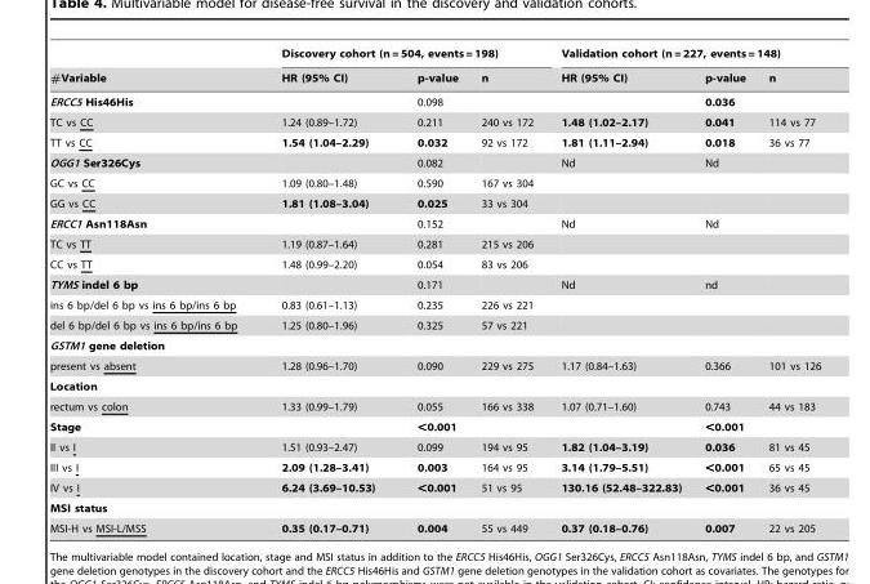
<table><thead><tr><td rowspan="2">#Variable</td><td colspan="3">Discovery cohort (n = 504, events = 198)</td><td colspan="3">Validation cohort (n = 227, events = 148)</td></tr><tr><td>HR (95% CI)</td><td>p-value</td><td>n</td><td>HR (95% CI)</td><td>p-value</td><td>n</td></tr></thead><tbody><tr><td>ERCC5 His46His</td><td></td><td>0.098</td><td></td><td></td><td>0.036</td><td></td></tr><tr><td>TC vs CC</td><td>1.24 (0.89–1.72)</td><td>0.211</td><td>240 vs 172</td><td>1.48 (1.02–2.17)</td><td>0.041</td><td>114 vs 77</td></tr><tr><td>TT vs CC</td><td>1.54 (1.04–2.29)</td><td>0.032</td><td>92 vs 172</td><td>1.81 (1.11–2.94)</td><td>0.018</td><td>36 vs 77</td></tr><tr><td>OGG1 Ser326Cys</td><td></td><td>0.082</td><td></td><td>Nd</td><td>Nd</td><td></td></tr><tr><td>GC vs CC</td><td>1.09 (0.80–1.48)</td><td>0.590</td><td>167 vs 304</td><td></td><td></td><td></td></tr><tr><td>GG vs CC</td><td>1.81 (1.08–3.04)</td><td>0.025</td><td>33 vs 304</td><td></td><td></td><td></td></tr><tr><td>ERCC1 Asn118Asn</td><td></td><td>0.152</td><td></td><td>Nd</td><td>Nd</td><td></td></tr><tr><td>TC vs TT</td><td>1.19 (0.87–1.64)</td><td>0.281</td><td>215 vs 206</td><td></td><td></td><td></td></tr><tr><td>CC vs TT</td><td>1.48 (0.99–2.20)</td><td>0.054</td><td>83 vs 206</td><td></td><td></td><td></td></tr><tr><td>TYMS indel 6 bp</td><td></td><td>0.171</td><td></td><td>Nd</td><td>nd</td><td></td></tr><tr><td>ins 6 bp/del 6 bp vs ins 6 bp/ins 6 bp</td><td>0.83 (0.61–1.13)</td><td>0.235</td><td>226 vs 221</td><td></td><td></td><td></td></tr><tr><td>del 6 bp/del 6 bp vs ins 6 bp/ins 6 bp</td><td>1.25 (0.80–1.96)</td><td>0.325</td><td>57 vs 221</td><td></td><td></td><td></td></tr><tr><td colspan="7">GSTM1 gene deletion</td></tr><tr><td>present vs absent</td><td>1.28 (0.96–1.70)</td><td>0.090</td><td>229 vs 275</td><td>1.17 (0.84–1.63)</td><td>0.366</td><td>101 vs 126</td></tr><tr><td colspan="7">Location</td></tr><tr><td>rectum vs colon</td><td>1.33 (0.99–1.79)</td><td>0.055</td><td>166 vs 338</td><td>1.07 (0.71–1.60)</td><td>0.743</td><td>44 vs 183</td></tr><tr><td>Stage</td><td></td><td>&lt;0.001</td><td></td><td></td><td>&lt;0.001</td><td></td></tr><tr><td>II vs I</td><td>1.51 (0.93–2.47)</td><td>0.099</td><td>194 vs 95</td><td>1.82 (1.04–3.19)</td><td>0.036</td><td>81 vs 45</td></tr><tr><td>III vs I</td><td>2.09 (1.28–3.41)</td><td>0.003</td><td>164 vs 95</td><td>3.14 (1.79–5.51)</td><td>&lt;0.001</td><td>65 vs 45</td></tr><tr><td>IV vs I</td><td>6.24 (3.69–10.53)</td><td>&lt;0.001</td><td>51 vs 95</td><td>130.16 (52.48–322.83)</td><td>&lt;0.001</td><td>36 vs 45</td></tr><tr><td colspan="7">MSI status</td></tr><tr><td>MSI-H vs MSI-L/MSS</td><td>0.35 (0.17–0.71)</td><td>0.004</td><td>55 vs 449</td><td>0.37 (0.18–0.76)</td><td>0.007</td><td>22 vs 205</td></tr></tbody></table>